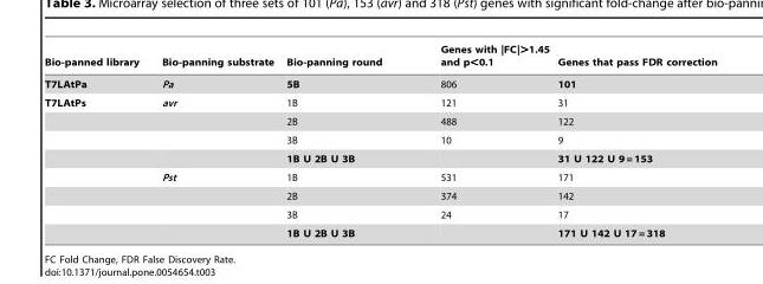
<table><thead><tr><td>Bio-panned library</td><td>Bio-panning substrate</td><td>Bio-panning round</td><td>Genes with |FC|&gt;1.45 and p&lt;0.1</td><td>Genes that pass FDR correction</td></tr></thead><tbody><tr><td>T7LAtPa</td><td>Pa</td><td>5B</td><td>806</td><td>101</td></tr><tr><td rowspan="8">T7LAtPs</td><td>avr</td><td>1B</td><td>121</td><td>31</td></tr><tr><td></td><td>2B</td><td>488</td><td>122</td></tr><tr><td></td><td>3B</td><td>10</td><td>9</td></tr><tr><td></td><td>1B U 2B U 3B</td><td></td><td>31 U 122 U 9 = 153</td></tr><tr><td>Pst</td><td>1B</td><td>531</td><td>171</td></tr><tr><td></td><td>2B</td><td>374</td><td>142</td></tr><tr><td></td><td>3B</td><td>24</td><td>17</td></tr><tr><td></td><td>1B U 2B U 3B</td><td></td><td>171 U 142 U 17 = 318</td></tr></tbody></table>